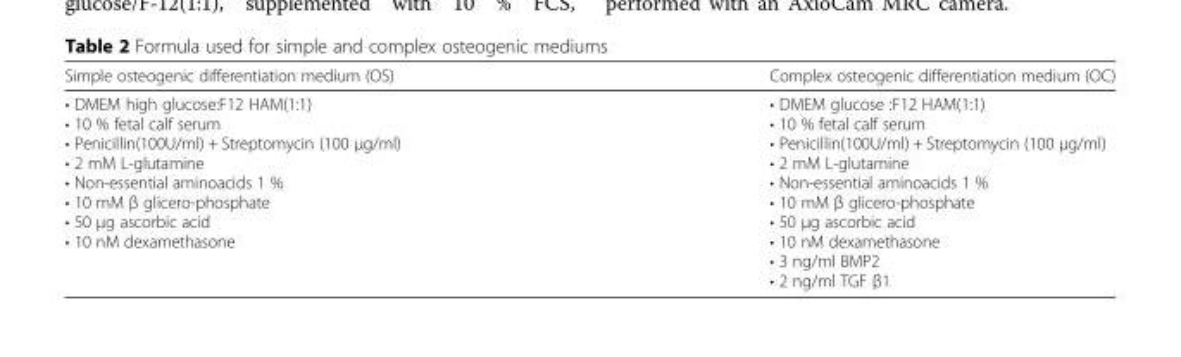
<table><thead><tr><td>Simple osteogenic differentiation medium (OS)</td><td>Complex osteogenic differentiation medium (OC)</td></tr></thead><tbody><tr><td>• DMEM high glucose:F12 HAM(1:1) • 10 % fetal calf serum • Penicillin(100U/ml) + Streptomycin (100 μg/ml) • 2 mM L-glutamine • Non-essential aminoacids 1 % • 10 mM β glicero-phosphate • 50 μg ascorbic acid • 10 nM dexamethasone</td><td>• DMEM glucose :F12 HAM(1:1) • 10 % fetal calf serum • Penicillin(100U/ml) + Streptomycin (100 μg/ml) • 2 mM L-glutamine • Non-essential aminoacids 1 % • 10 mM β glicero-phosphate • 50 μg ascorbic acid • 10 nM dexamethasone • 3 ng/ml BMP2 • 2 ng/ml TGF β1</td></tr></tbody></table>